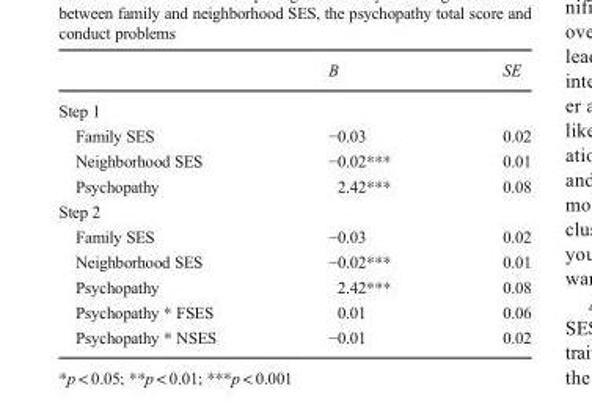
<table><thead><tr><td></td><td>B</td><td>SE</td></tr></thead><tbody><tr><td colspan="3">Step 1</td></tr><tr><td>Family SES</td><td>−0.03</td><td>0.02</td></tr><tr><td>Neighborhood SES</td><td>−0.02***</td><td>0.01</td></tr><tr><td>Psychopathy</td><td>2.42***</td><td>0.08</td></tr><tr><td colspan="3">Step 2</td></tr><tr><td>Family SES</td><td>−0.03</td><td>0.02</td></tr><tr><td>Neighborhood SES</td><td>−0.02***</td><td>0.01</td></tr><tr><td>Psychopathy</td><td>2.42***</td><td>0.08</td></tr><tr><td>Psychopathy * FSES</td><td>0.01</td><td>0.06</td></tr><tr><td>Psychopathy * NSES</td><td>−0.01</td><td>0.02</td></tr></tbody></table>